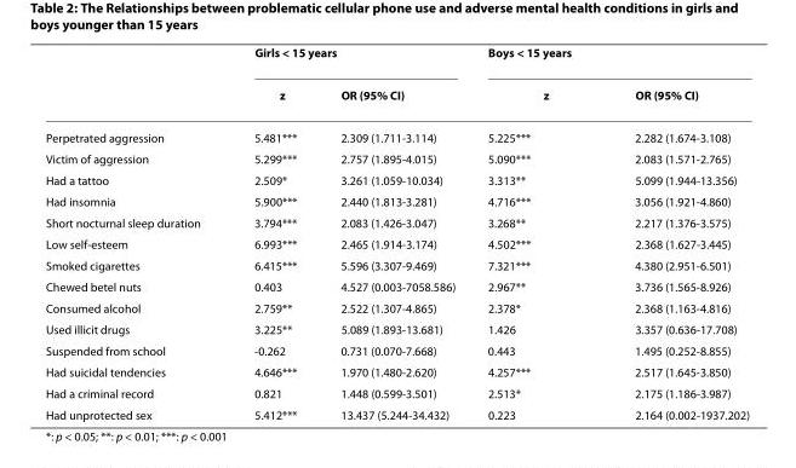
<table><thead><tr><td rowspan="2"></td><td colspan="2">Girls &lt; 15 years</td><td colspan="2">Boys &lt; 15 years</td></tr><tr><td>z</td><td>OR (95% CI)</td><td>z</td><td>OR (95% CI)</td></tr></thead><tbody><tr><td>Perpetrated aggression</td><td>5.481***</td><td>2.309 (1.711-3.114)</td><td>5.225***</td><td>2.282 (1.674-3.108)</td></tr><tr><td>Victim of aggression</td><td>5.299***</td><td>2.757 (1.895-4.015)</td><td>5.090***</td><td>2.083 (1.571-2.765)</td></tr><tr><td>Had a tattoo</td><td>2.509*</td><td>3.261 (1.059-10.034)</td><td>3.313**</td><td>5.099 (1.944-13.356)</td></tr><tr><td>Had insomnia</td><td>5.900***</td><td>2.440 (1.813-3.281)</td><td>4.716***</td><td>3.056 (1.921-4.860)</td></tr><tr><td>Short nocturnal sleep duration</td><td>3.794***</td><td>2.083 (1.426-3.047)</td><td>3.268**</td><td>2.217 (1.376-3.575)</td></tr><tr><td>Low self-esteem</td><td>6.993***</td><td>2.465 (1.914-3.174)</td><td>4.502***</td><td>2.368 (1.627-3.445)</td></tr><tr><td>Smoked cigarettes</td><td>6.415***</td><td>5.596 (3.307-9.469)</td><td>7.321***</td><td>4.380 (2.951-6.501)</td></tr><tr><td>Chewed betel nuts</td><td>0.403</td><td>4.527 (0.003-7058.586)</td><td>2.967**</td><td>3.736 (1.565-8.926)</td></tr><tr><td>Consumed alcohol</td><td>2.759**</td><td>2.522 (1.307-4.865)</td><td>2.378*</td><td>2.368 (1.163-4.816)</td></tr><tr><td>Used illicit drugs</td><td>3.225**</td><td>5.089 (1.893-13.681)</td><td>1.426</td><td>3.357 (0.636-17.708)</td></tr><tr><td>Suspended from school</td><td>-0.262</td><td>0.731 (0.070-7.668)</td><td>0.443</td><td>1.495 (0.252-8.855)</td></tr><tr><td>Had suicidal tendencies</td><td>4.646***</td><td>1.970 (1.480-2.620)</td><td>4.257***</td><td>2.517 (1.645-3.850)</td></tr><tr><td>Had a criminal record</td><td>0.821</td><td>1.448 (0.599-3.501)</td><td>2.513*</td><td>2.175 (1.186-3.987)</td></tr><tr><td>Had unprotected sex</td><td>5.412***</td><td>13.437 (5.244-34.432)</td><td>0.223</td><td>2.164 (0.002-1937.202)</td></tr></tbody></table>